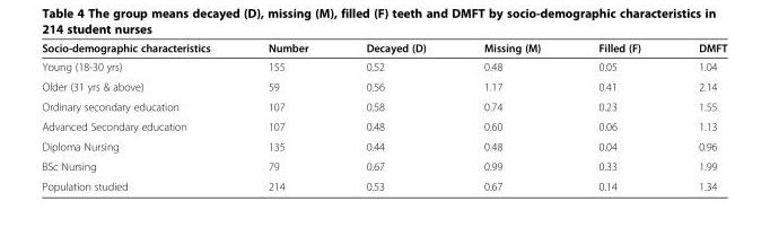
<table><thead><tr><td>Socio-demographic characteristics</td><td>Number</td><td>Decayed (D)</td><td>Missing (M)</td><td>Filled (F)</td><td>DMFT</td></tr></thead><tbody><tr><td>Young (18-30 yrs)</td><td>155</td><td>0.52</td><td>0.48</td><td>0.05</td><td>1.04</td></tr><tr><td>Older (31 yrs &amp; above)</td><td>59</td><td>0.56</td><td>1.17</td><td>0.41</td><td>2.14</td></tr><tr><td>Ordinary secondary education</td><td>107</td><td>0.58</td><td>0.74</td><td>0.23</td><td>1.55</td></tr><tr><td>Advanced Secondary education</td><td>107</td><td>0.48</td><td>0.60</td><td>0.06</td><td>1.13</td></tr><tr><td>Diploma Nursing</td><td>135</td><td>0.44</td><td>0.48</td><td>0.04</td><td>0.96</td></tr><tr><td>BSc Nursing</td><td>79</td><td>0.67</td><td>0.99</td><td>0.33</td><td>1.99</td></tr><tr><td>Population studied</td><td>214</td><td>0.53</td><td>0.67</td><td>0.14</td><td>1.34</td></tr></tbody></table>